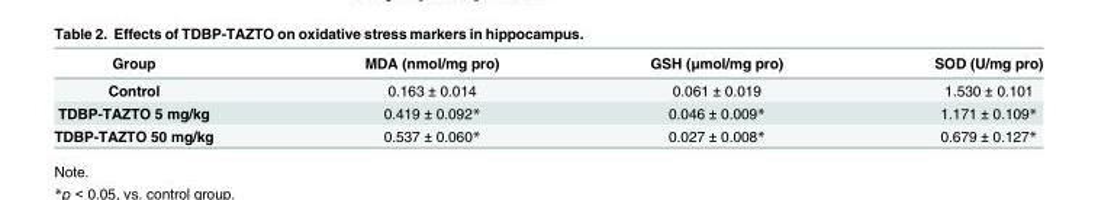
<table><thead><tr><td>Group</td><td>MDA (nmol/mg pro)</td><td>GSH (μmol/mg pro)</td><td>SOD (U/mg pro)</td></tr></thead><tbody><tr><td>Control</td><td>0.163 ± 0.014</td><td>0.061 ± 0.019</td><td>1.530 ± 0.101</td></tr><tr><td>TDBP-TAZTO 5 mg/kg</td><td>0.419 ± 0.092*</td><td>0.046 ± 0.009*</td><td>1.171 ± 0.109*</td></tr><tr><td>TDBP-TAZTO 50 mg/kg</td><td>0.537 ± 0.060*</td><td>0.027 ± 0.008*</td><td>0.679 ± 0.127*</td></tr></tbody></table>